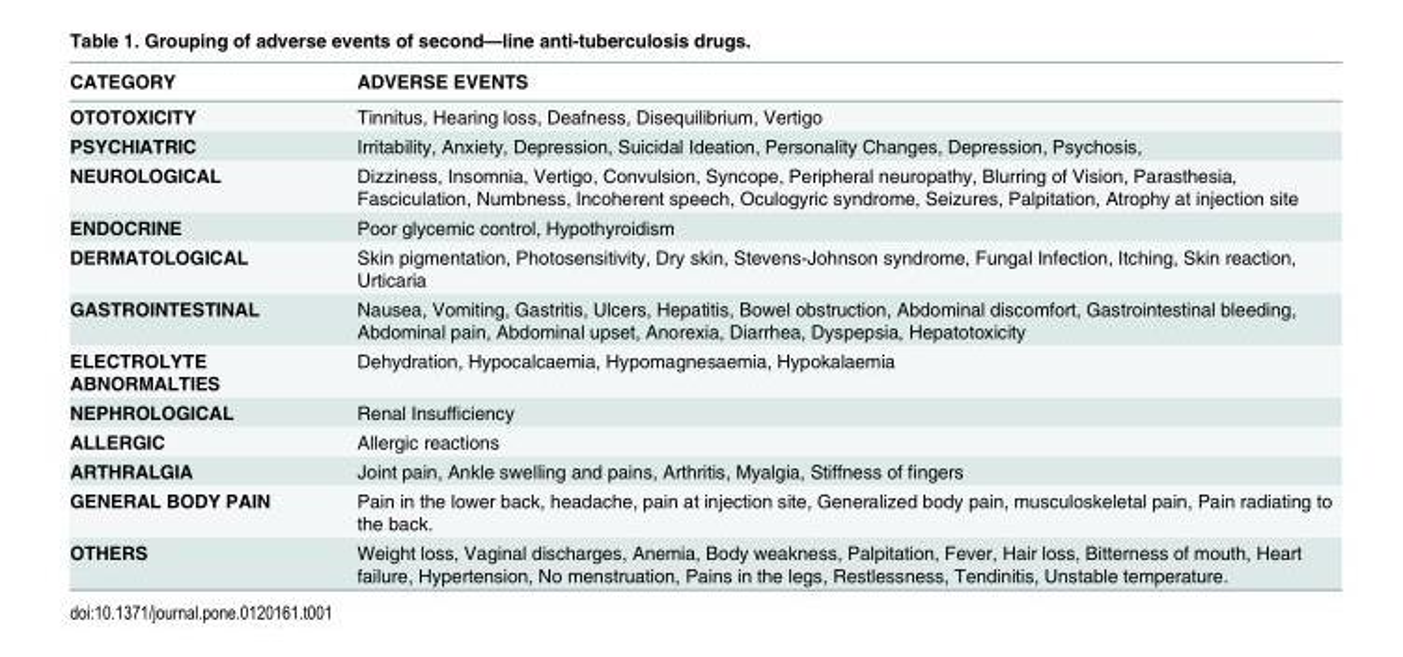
<table><thead><tr><td>CATEGORY</td><td>ADVERSE EVENTS</td></tr></thead><tbody><tr><td>OTOTOXICITY</td><td>Tinnitus, Hearing loss, Deafness, Disequilibrium, Vertigo</td></tr><tr><td>PSYCHIATRIC</td><td>Irritability, Anxiety, Depression, Suicidal Ideation, Personality Changes, Depression, Psychosis,</td></tr><tr><td>NEUROLOGICAL</td><td>Dizziness, Insomnia, Vertigo, Convulsion, Syncope, Peripheral neuropathy, Blurring of Vision, Parasthesia, Fasciculation, Numbness, Incoherent speech, Oculogyric syndrome, Seizures, Palpitation, Atrophy at injection site</td></tr><tr><td>ENDOCRINE</td><td>Poor glycemic control, Hypothyroidism</td></tr><tr><td>DERMATOLOGICAL</td><td>Skin pigmentation, Photosensitivity, Dry skin, Stevens-Johnson syndrome, Fungal Infection, Itching, Skin reaction, Urticaria</td></tr><tr><td>GASTROINTESTINAL</td><td>Nausea, Vomiting, Gastritis, Ulcers, Hepatitis, Bowel obstruction, Abdominal discomfort, Gastrointestinal bleeding, Abdominal pain, Abdominal upset, Anorexia, Diarrhea, Dyspepsia, Hepatotoxicity</td></tr><tr><td>ELECTROLYTE ABNORMALTIES</td><td>Dehydration, Hypocalcaemia, Hypomagnesaemia, Hypokalaemia</td></tr><tr><td>NEPHROLOGICAL</td><td>Renal Insufficiency</td></tr><tr><td>ALLERGIC</td><td>Allergic reactions</td></tr><tr><td>ARTHRALGIA</td><td>Joint pain, Ankle swelling and pains, Arthritis, Myalgia, Stiffness of fingers</td></tr><tr><td>GENERAL BODY PAIN</td><td>Pain in the lower back, headache, pain at injection site, Generalized body pain, musculoskeletal pain, Pain radiating to the back.</td></tr><tr><td>OTHERS</td><td>Weight loss, Vaginal discharges, Anemia, Body weakness, Palpitation, Fever, Hair loss, Bitterness of mouth, Heart failure, Hypertension, No menstruation, Pains in the legs, Restlessness, Tendinitis, Unstable temperature.</td></tr></tbody></table>